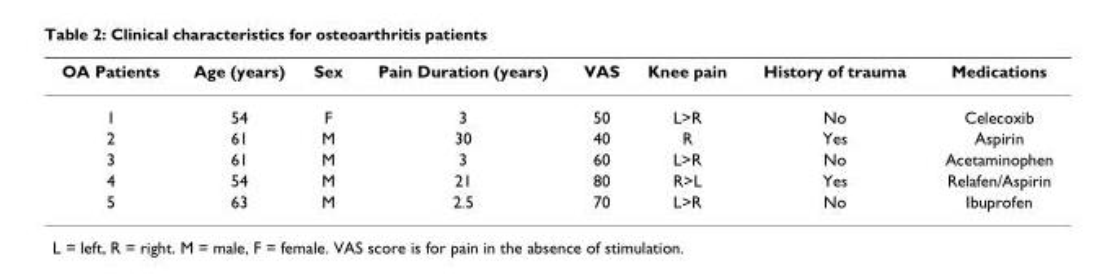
<table><thead><tr><td>OA Patients</td><td>Age (years)</td><td>Sex</td><td>Pain Duration (years)</td><td>VAS</td><td>Knee pain</td><td>History of trauma</td><td>Medications</td></tr></thead><tbody><tr><td>1</td><td>54</td><td>F</td><td>3</td><td>50</td><td>L&gt;R</td><td>No</td><td>Celecoxib</td></tr><tr><td>2</td><td>61</td><td>M</td><td>30</td><td>40</td><td>R</td><td>Yes</td><td>Aspirin</td></tr><tr><td>3</td><td>61</td><td>M</td><td>3</td><td>60</td><td>L&gt;R</td><td>No</td><td>Acetaminophen</td></tr><tr><td>4</td><td>54</td><td>M</td><td>21</td><td>80</td><td>R&gt;L</td><td>Yes</td><td>Relafen/Aspirin</td></tr><tr><td>5</td><td>63</td><td>M</td><td>2.5</td><td>70</td><td>L&gt;R</td><td>No</td><td>Ibuprofen</td></tr></tbody></table>